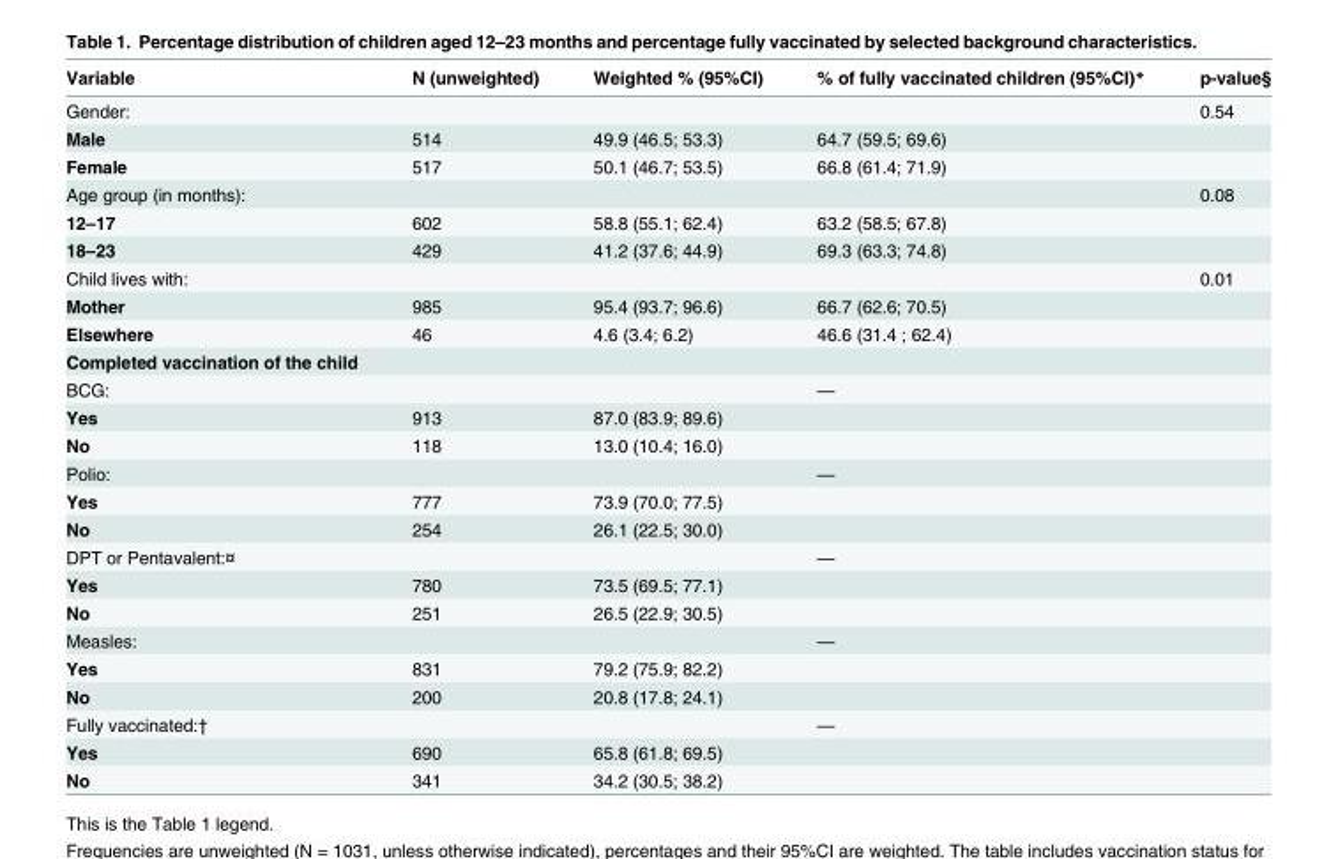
<table><thead><tr><td>Variable</td><td>N (unweighted)</td><td>Weighted % (95%CI)</td><td>% of fully vaccinated children (95%CI)*</td><td>p-value§</td></tr></thead><tbody><tr><td>Gender:</td><td></td><td></td><td></td><td>0.54</td></tr><tr><td>Male</td><td>514</td><td>49.9 (46.5; 53.3)</td><td>64.7 (59.5; 69.6)</td><td></td></tr><tr><td>Female</td><td>517</td><td>50.1 (46.7; 53.5)</td><td>66.8 (61.4; 71.9)</td><td></td></tr><tr><td>Age group (in months):</td><td></td><td></td><td></td><td>0.08</td></tr><tr><td>12–17</td><td>602</td><td>58.8 (55.1; 62.4)</td><td>63.2 (58.5; 67.8)</td><td></td></tr><tr><td>18–23</td><td>429</td><td>41.2 (37.6; 44.9)</td><td>69.3 (63.3; 74.8)</td><td></td></tr><tr><td>Child lives with:</td><td></td><td></td><td></td><td>0.01</td></tr><tr><td>Mother</td><td>985</td><td>95.4 (93.7; 96.6)</td><td>66.7 (62.6; 70.5)</td><td></td></tr><tr><td>Elsewhere</td><td>46</td><td>4.6 (3.4; 6.2)</td><td>46.6 (31.4 ; 62.4)</td><td></td></tr><tr><td colspan="5">Completed vaccination of the child</td></tr><tr><td>BCG:</td><td></td><td></td><td>—</td><td></td></tr><tr><td>Yes</td><td>913</td><td>87.0 (83.9; 89.6)</td><td></td><td></td></tr><tr><td>No</td><td>118</td><td>13.0 (10.4; 16.0)</td><td></td><td></td></tr><tr><td>Polio:</td><td></td><td></td><td>—</td><td></td></tr><tr><td>Yes</td><td>777</td><td>73.9 (70.0; 77.5)</td><td></td><td></td></tr><tr><td>No</td><td>254</td><td>26.1 (22.5; 30.0)</td><td></td><td></td></tr><tr><td>DPT or Pentavalent:¤</td><td></td><td></td><td>—</td><td></td></tr><tr><td>Yes</td><td>780</td><td>73.5 (69.5; 77.1)</td><td></td><td></td></tr><tr><td>No</td><td>251</td><td>26.5 (22.9; 30.5)</td><td></td><td></td></tr><tr><td>Measles:</td><td></td><td></td><td>—</td><td></td></tr><tr><td>Yes</td><td>831</td><td>79.2 (75.9; 82.2)</td><td></td><td></td></tr><tr><td>No</td><td>200</td><td>20.8 (17.8; 24.1)</td><td></td><td></td></tr><tr><td>Fully vaccinated:†</td><td></td><td></td><td>—</td><td></td></tr><tr><td>Yes</td><td>690</td><td>65.8 (61.8; 69.5)</td><td></td><td></td></tr><tr><td>No</td><td>341</td><td>34.2 (30.5; 38.2)</td><td></td><td></td></tr></tbody></table>